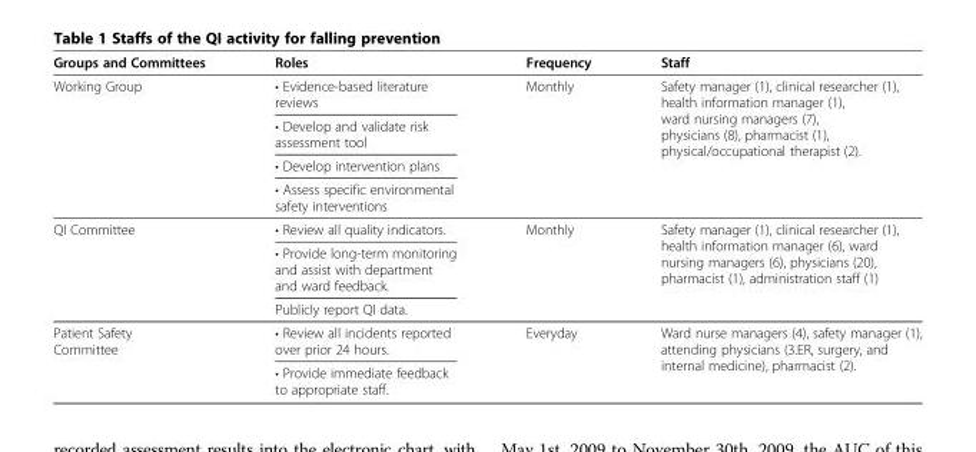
<table><thead><tr><td>Groups and Committees</td><td>Roles</td><td>Frequency</td><td>Staff</td></tr></thead><tbody><tr><td rowspan="4">Working Group</td><td>• Evidence-based literature reviews</td><td rowspan="4">Monthly</td><td rowspan="4">Safety manager (1), clinical researcher (1), health information manager (1), ward nursing managers (7), physicians (8), pharmacist (1), physical/occupational therapist (2).</td></tr><tr><td>• Develop and validate risk assessment tool</td></tr><tr><td>• Develop intervention plans</td></tr><tr><td>• Assess specific environmental safety interventions</td></tr><tr><td rowspan="3">QI Committee</td><td>• Review all quality indicators.</td><td rowspan="3">Monthly</td><td rowspan="3">Safety manager (1), clinical researcher (1), health information manager (6), ward nursing managers (6), physicians (20), pharmacist (1), administration staff (1)</td></tr><tr><td>• Provide long-term monitoring and assist with department and ward feedback.</td></tr><tr><td>Publicly report QI data.</td></tr><tr><td rowspan="2">Patient Safety Committee</td><td>• Review all incidents reported over prior 24 hours.</td><td rowspan="2">Everyday</td><td rowspan="2">Ward nurse managers (4), safety manager (1), attending physicians (3.ER, surgery, and internal medicine), pharmacist (2).</td></tr><tr><td>• Provide immediate feedback to appropriate staff.</td></tr></tbody></table>